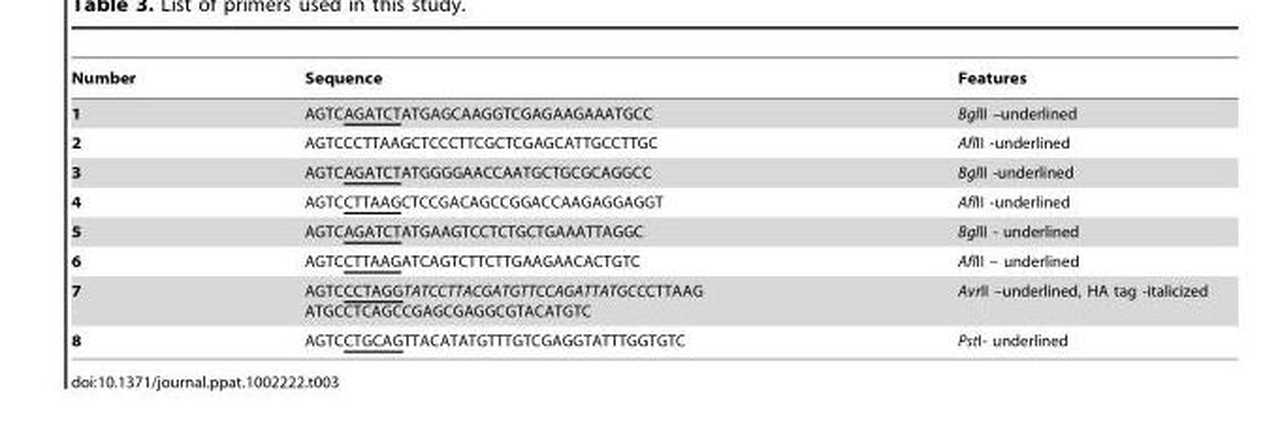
<table><thead><tr><td>Number</td><td>Sequence</td><td>Features</td></tr></thead><tbody><tr><td>1</td><td>AGTCAGATCTATGAGCAAGGTCGAGAAGAAATGCC</td><td>BglII –underlined</td></tr><tr><td>2</td><td>AGTCCCTTAAGCTCCCTTCGCTCGAGCATTGCCTTGC</td><td>AflII -underlined</td></tr><tr><td>3</td><td>AGTCAGATCTATGGGGAACCAATGCTGCGCAGGCC</td><td>BglII -underlined</td></tr><tr><td>4</td><td>AGTCCTTAAGCTCCGACAGCCGGACCAAGAGGAGGT</td><td>AflII -underlined</td></tr><tr><td>5</td><td>AGTCAGATCTATGAAGTCCTCTGCTGAAATTAGGC</td><td>BglII - underlined</td></tr><tr><td>6</td><td>AGTCCTTAAGATCAGTCTTCTTGAAGAACACTGTC</td><td>AflII – underlined</td></tr><tr><td>7</td><td>AGTCCCTAGGTATCCTTACGATGTTCCAGATTATGCCCTTAAG ATGCCTCAGCCGAGCGAGGCGTACATGTC</td><td>AvrII –underlined, HA tag -italicized</td></tr><tr><td>8</td><td>AGTCCTGCAGTTACATATGTTTGTCGAGGTATTTGGTGTC</td><td>PstI- underlined</td></tr></tbody></table>